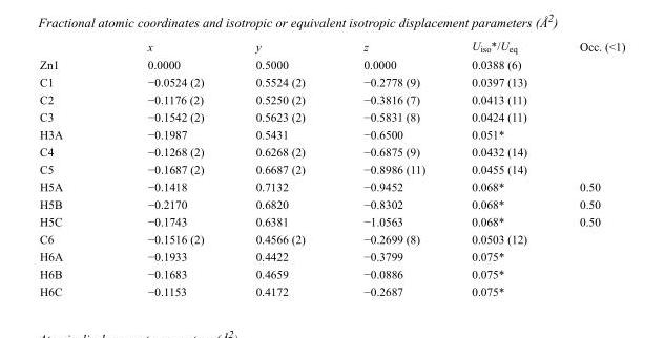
<table><thead><tr><td></td><td>x</td><td>y</td><td>z</td><td>U<sub>iso</sub>*/U<sub>eq</sub></td><td>Occ. (&lt;1)</td></tr></thead><tbody><tr><td>Zn1</td><td>0.0000</td><td>0.5000</td><td>0.0000</td><td>0.0388 (6)</td><td></td></tr><tr><td>C1</td><td>−0.0524 (2)</td><td>0.5524 (2)</td><td>−0.2778 (9)</td><td>0.0397 (13)</td><td></td></tr><tr><td>C2</td><td>−0.1176 (2)</td><td>0.5250 (2)</td><td>−0.3816 (7)</td><td>0.0413 (11)</td><td></td></tr><tr><td>C3</td><td>−0.1542 (2)</td><td>0.5623 (2)</td><td>−0.5831 (8)</td><td>0.0424 (11)</td><td></td></tr><tr><td>H3A</td><td>−0.1987</td><td>0.5431</td><td>−0.6500</td><td>0.051*</td><td></td></tr><tr><td>C4</td><td>−0.1268 (2)</td><td>0.6268 (2)</td><td>−0.6875 (9)</td><td>0.0432 (14)</td><td></td></tr><tr><td>C5</td><td>−0.1687 (2)</td><td>0.6687 (2)</td><td>−0.8986 (11)</td><td>0.0455 (14)</td><td></td></tr><tr><td>H5A</td><td>−0.1418</td><td>0.7132</td><td>−0.9452</td><td>0.068*</td><td>0.50</td></tr><tr><td>H5B</td><td>−0.2170</td><td>0.6820</td><td>−0.8302</td><td>0.068*</td><td>0.50</td></tr><tr><td>H5C</td><td>−0.1743</td><td>0.6381</td><td>−1.0563</td><td>0.068*</td><td>0.50</td></tr><tr><td>C6</td><td>−0.1516 (2)</td><td>0.4566 (2)</td><td>−0.2699 (8)</td><td>0.0503 (12)</td><td></td></tr><tr><td>H6A</td><td>−0.1933</td><td>0.4422</td><td>−0.3799</td><td>0.075*</td><td></td></tr><tr><td>H6B</td><td>−0.1683</td><td>0.4659</td><td>−0.0886</td><td>0.075*</td><td></td></tr><tr><td>H6C</td><td>−0.1153</td><td>0.4172</td><td>−0.2687</td><td>0.075*</td><td></td></tr></tbody></table>